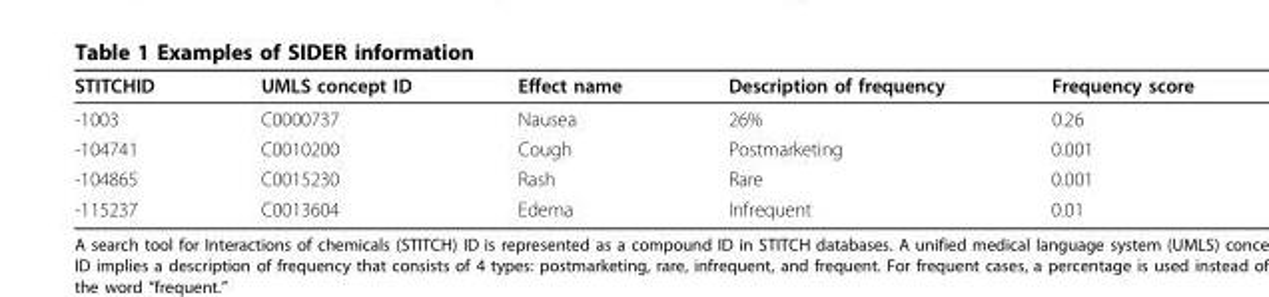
<table><thead><tr><td>STITCHID</td><td>UMLS concept ID</td><td>Effect name</td><td>Description of frequency</td><td>Frequency score</td></tr></thead><tbody><tr><td>-1003</td><td>C0000737</td><td>Nausea</td><td>26%</td><td>0.26</td></tr><tr><td>-104741</td><td>C0010200</td><td>Cough</td><td>Postmarketing</td><td>0.001</td></tr><tr><td>-104865</td><td>C0015230</td><td>Rash</td><td>Rare</td><td>0.001</td></tr><tr><td>-115237</td><td>C0013604</td><td>Edema</td><td>Infrequent</td><td>0.01</td></tr></tbody></table>